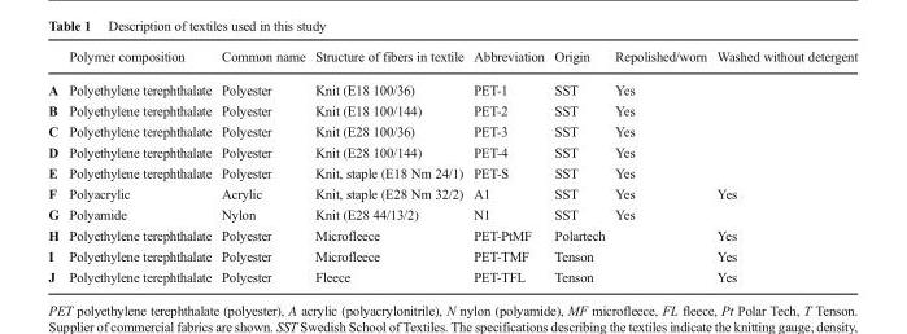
<table><thead><tr><td></td><td>Polymer composition</td><td>Common name</td><td>Structure of fibers in textile</td><td>Abbreviation</td><td>Origin</td><td>Repolished/worn</td><td>Washed without detergent</td></tr></thead><tbody><tr><td>A</td><td>Polyethylene terephthalate</td><td>Polyester</td><td>Knit (E18 100/36)</td><td>PET-1</td><td>SST</td><td>Yes</td><td></td></tr><tr><td>B</td><td>Polyethylene terephthalate</td><td>Polyester</td><td>Knit (E18 100/144)</td><td>PET-2</td><td>SST</td><td>Yes</td><td></td></tr><tr><td>C</td><td>Polyethylene terephthalate</td><td>Polyester</td><td>Knit (E28 100/36)</td><td>PET-3</td><td>SST</td><td>Yes</td><td></td></tr><tr><td>D</td><td>Polyethylene terephthalate</td><td>Polyester</td><td>Knit (E28 100/144)</td><td>PET-4</td><td>SST</td><td>Yes</td><td></td></tr><tr><td>E</td><td>Polyethylene terephthalate</td><td>Polyester</td><td>Knit, staple (E18 Nm 24/1)</td><td>PET-S</td><td>SST</td><td>Yes</td><td></td></tr><tr><td>F</td><td>Polyacrylic</td><td>Acrylic</td><td>Knit, staple (E28 Nm 32/2)</td><td>A1</td><td>SST</td><td>Yes</td><td>Yes</td></tr><tr><td>G</td><td>Polyamide</td><td>Nylon</td><td>Knit (E28 44/13/2)</td><td>N1</td><td>SST</td><td>Yes</td><td></td></tr><tr><td>H</td><td>Polyethylene terephthalate</td><td>Polyester</td><td>Microfleece</td><td>PET-PtMF</td><td>Polartech</td><td></td><td>Yes</td></tr><tr><td>I</td><td>Polyethylene terephthalate</td><td>Polyester</td><td>Microfleece</td><td>PET-TMF</td><td>Tenson</td><td></td><td>Yes</td></tr><tr><td>J</td><td>Polyethylene terephthalate</td><td>Polyester</td><td>Fleece</td><td>PET-TFL</td><td>Tenson</td><td></td><td>Yes</td></tr></tbody></table>